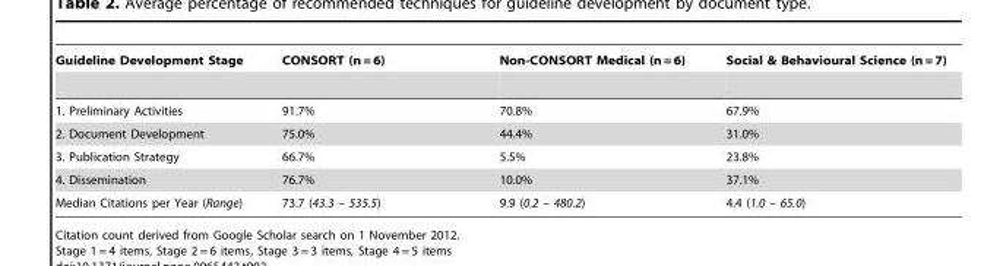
<table><thead><tr><td>Guideline Development Stage</td><td>CONSORT (n = 6)</td><td>Non-CONSORT Medical (n = 6)</td><td>Social &amp; Behavioural Science (n = 7)</td></tr></thead><tbody><tr><td>1. Preliminary Activities</td><td>91.7%</td><td>70.8%</td><td>67.9%</td></tr><tr><td>2. Document Development</td><td>75.0%</td><td>44.4%</td><td>31.0%</td></tr><tr><td>3. Publication Strategy</td><td>66.7%</td><td>5.5%</td><td>23.8%</td></tr><tr><td>4. Dissemination</td><td>76.7%</td><td>10.0%</td><td>37.1%</td></tr><tr><td>Median Citations per Year (Range)</td><td>73.7 (43.3 – 535.5)</td><td>9.9 (0.2 – 480.2)</td><td>4.4 (1.0 – 65.0)</td></tr></tbody></table>